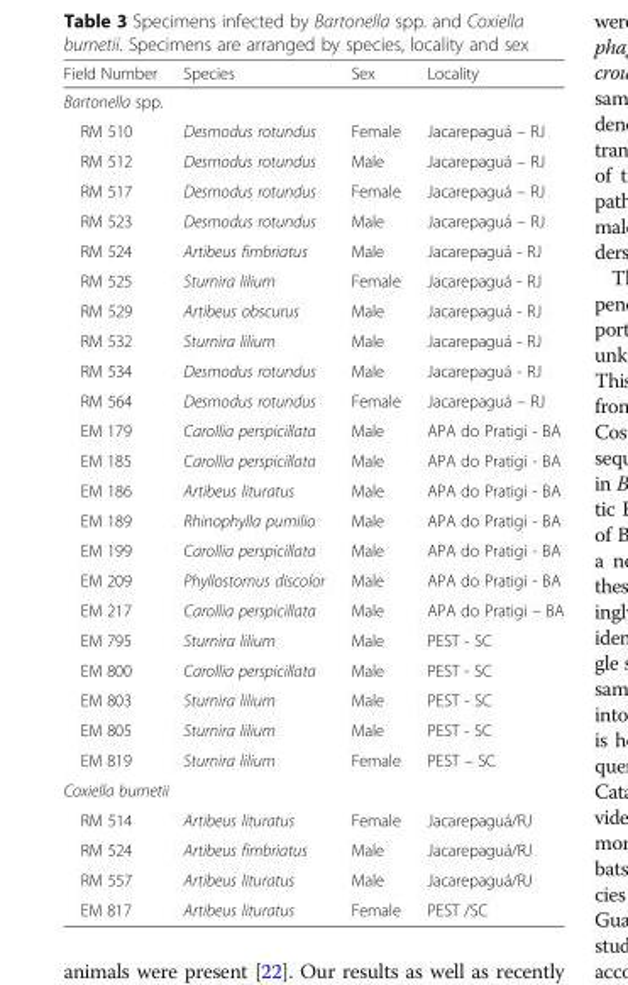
<table><thead><tr><td>Field Number</td><td>Species</td><td>Sex</td><td>Locality</td></tr></thead><tbody><tr><td colspan="4">Bartonella spp.</td></tr><tr><td>RM 510</td><td>Desmodus rotundus</td><td>Female</td><td>Jacarepaguá – RJ</td></tr><tr><td>RM 512</td><td>Desmodus rotundus</td><td>Male</td><td>Jacarepaguá – RJ</td></tr><tr><td>RM 517</td><td>Desmodus rotundus</td><td>Female</td><td>Jacarepaguá – RJ</td></tr><tr><td>RM 523</td><td>Desmodus rotundus</td><td>Male</td><td>Jacarepaguá – RJ</td></tr><tr><td>RM 524</td><td>Artibeus fimbriatus</td><td>Male</td><td>Jacarepaguá - RJ</td></tr><tr><td>RM 525</td><td>Sturnira lilium</td><td>Female</td><td>Jacarepaguá - RJ</td></tr><tr><td>RM 529</td><td>Artibeus obscurus</td><td>Male</td><td>Jacarepaguá - RJ</td></tr><tr><td>RM 532</td><td>Sturnira lilium</td><td>Male</td><td>Jacarepaguá - RJ</td></tr><tr><td>RM 534</td><td>Desmodus rotundus</td><td>Male</td><td>Jacarepaguá - RJ</td></tr><tr><td>RM 564</td><td>Desmodus rotundus</td><td>Female</td><td>Jacarepaguá – RJ</td></tr><tr><td>EM 179</td><td>Carollia perspicillata</td><td>Male</td><td>APA do Pratigi - BA</td></tr><tr><td>EM 185</td><td>Carollia perspicillata</td><td>Male</td><td>APA do Pratigi - BA</td></tr><tr><td>EM 186</td><td>Artibeus lituratus</td><td>Male</td><td>APA do Pratigi - BA</td></tr><tr><td>EM 189</td><td>Rhinophylla pumilio</td><td>Male</td><td>APA do Pratigi - BA</td></tr><tr><td>EM 199</td><td>Carollia perspicillata</td><td>Male</td><td>APA do Pratigi - BA</td></tr><tr><td>EM 209</td><td>Phyllostomus discolor</td><td>Male</td><td>APA do Pratigi - BA</td></tr><tr><td>EM 217</td><td>Carollia perspicillata</td><td>Male</td><td>APA do Pratigi – BA</td></tr><tr><td>EM 795</td><td>Sturnira lilium</td><td>Male</td><td>PEST - SC</td></tr><tr><td>EM 800</td><td>Carollia perspicillata</td><td>Male</td><td>PEST - SC</td></tr><tr><td>EM 803</td><td>Sturnira lilium</td><td>Male</td><td>PEST - SC</td></tr><tr><td>EM 805</td><td>Sturnira lilium</td><td>Male</td><td>PEST - SC</td></tr><tr><td>EM 819</td><td>Sturnira lilium</td><td>Female</td><td>PEST – SC</td></tr><tr><td colspan="4">Coxiella burnetii</td></tr><tr><td>RM 514</td><td>Artibeus lituratus</td><td>Female</td><td>Jacarepaguá/RJ</td></tr><tr><td>RM 524</td><td>Artibeus fimbriatus</td><td>Male</td><td>Jacarepaguá/RJ</td></tr><tr><td>RM 557</td><td>Artibeus lituratus</td><td>Male</td><td>Jacarepaguá/RJ</td></tr><tr><td>EM 817</td><td>Artibeus lituratus</td><td>Female</td><td>PEST /SC</td></tr></tbody></table>